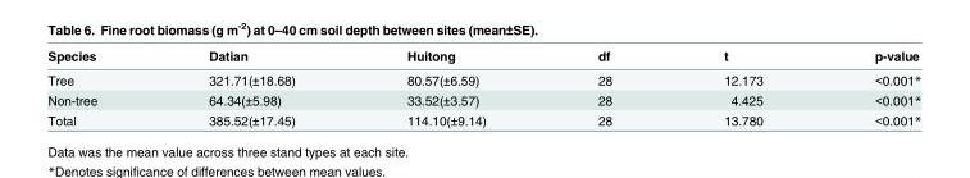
<table><thead><tr><td>Species</td><td>Datian</td><td>Huitong</td><td>df</td><td>t</td><td>p-value</td></tr></thead><tbody><tr><td>Tree</td><td>321.71(±18.68)</td><td>80.57(±6.59)</td><td>28</td><td>12.173</td><td>&lt;0.001*</td></tr><tr><td>Non-tree</td><td>64.34(±5.98)</td><td>33.52(±3.57)</td><td>28</td><td>4.425</td><td>&lt;0.001*</td></tr><tr><td>Total</td><td>385.52(±17.45)</td><td>114.10(±9.14)</td><td>28</td><td>13.780</td><td>&lt;0.001*</td></tr></tbody></table>